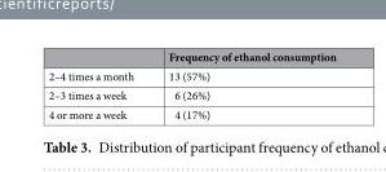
<table><thead><tr><td></td><td>Frequency of ethanol consumption</td></tr></thead><tbody><tr><td>2–4 times a month</td><td>13 (57%)</td></tr><tr><td>2–3 times a week</td><td>6 (26%)</td></tr><tr><td>4 or more a week</td><td>4 (17%)</td></tr></tbody></table>